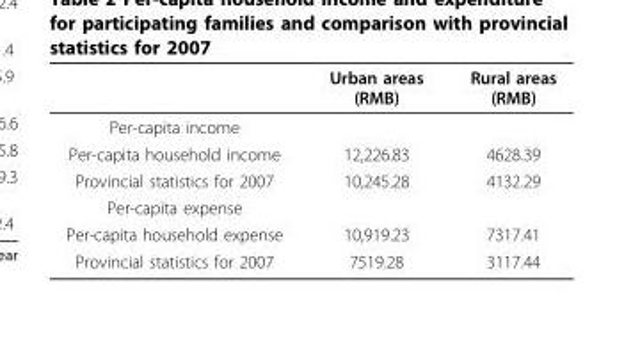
<table><thead><tr><td></td><td>Urban areas (RMB)</td><td>Rural areas (RMB)</td></tr></thead><tbody><tr><td colspan="3">Per-capita income</td></tr><tr><td>Per-capita household income</td><td>12,226.83</td><td>4628.39</td></tr><tr><td>Provincial statistics for 2007</td><td>10,245.28</td><td>4132.29</td></tr><tr><td colspan="3">Per-capita expense</td></tr><tr><td>Per-capita household expense</td><td>10,919.23</td><td>7317.41</td></tr><tr><td>Provincial statistics for 2007</td><td>7519.28</td><td>3117.44</td></tr></tbody></table>